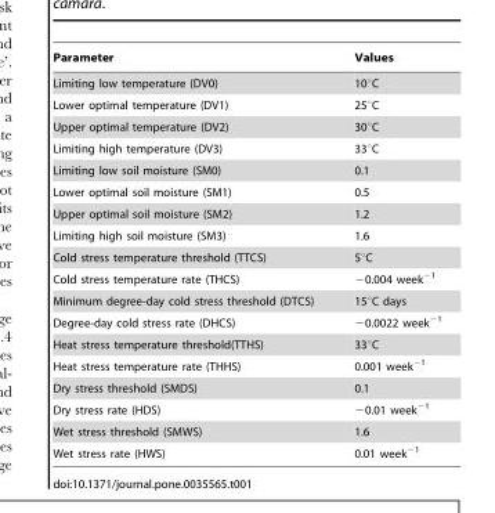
<table><thead><tr><td>Parameter</td><td>Values</td></tr></thead><tbody><tr><td>Limiting low temperature (DV0)</td><td>10°C</td></tr><tr><td>Lower optimal temperature (DV1)</td><td>25°C</td></tr><tr><td>Upper optimal temperature (DV2)</td><td>30°C</td></tr><tr><td>Limiting high temperature (DV3)</td><td>33°C</td></tr><tr><td>Limiting low soil moisture (SM0)</td><td>0.1</td></tr><tr><td>Lower optimal soil moisture (SM1)</td><td>0.5</td></tr><tr><td>Upper optimal soil moisture (SM2)</td><td>1.2</td></tr><tr><td>Limiting high soil moisture (SM3)</td><td>1.6</td></tr><tr><td>Cold stress temperature threshold (TTCS)</td><td>5°C</td></tr><tr><td>Cold stress temperature rate (THCS)</td><td>−0.004 week<sup>−1</sup></td></tr><tr><td>Minimum degree-day cold stress threshold (DTCS)</td><td>15°C days</td></tr><tr><td>Degree-day cold stress rate (DHCS)</td><td>−0.0022 week<sup>−1</sup></td></tr><tr><td>Heat stress temperature threshold(TTHS)</td><td>33°C</td></tr><tr><td>Heat stress temperature rate (THHS)</td><td>0.001 week<sup>−1</sup></td></tr><tr><td>Dry stress threshold (SMDS)</td><td>0.1</td></tr><tr><td>Dry stress rate (HDS)</td><td>−0.01 week<sup>−1</sup></td></tr><tr><td>Wet stress threshold (SMWS)</td><td>1.6</td></tr><tr><td>Wet stress rate (HWS)</td><td>0.01 week<sup>−1</sup></td></tr></tbody></table>